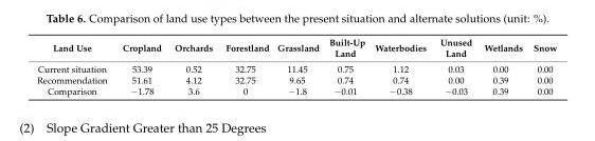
<table><thead><tr><td>Land Use</td><td>Cropland</td><td>Orchards</td><td>Forestland</td><td>Grassland</td><td>Built-Up Land</td><td>Waterbodies</td><td>Unused Land</td><td>Wetlands</td><td>Snow</td></tr></thead><tbody><tr><td>Current situation</td><td>53.39</td><td>0.52</td><td>32.75</td><td>11.45</td><td>0.75</td><td>1.12</td><td>0.03</td><td>0.00</td><td>0.00</td></tr><tr><td>Recommendation</td><td>51.61</td><td>4.12</td><td>32.75</td><td>9.65</td><td>0.74</td><td>0.74</td><td>0.00</td><td>0.39</td><td>0.00</td></tr><tr><td>Comparison</td><td>−1.78</td><td>3.6</td><td>0</td><td>−1.8</td><td>−0.01</td><td>−0.38</td><td>−0.03</td><td>0.39</td><td>0.00</td></tr></tbody></table>